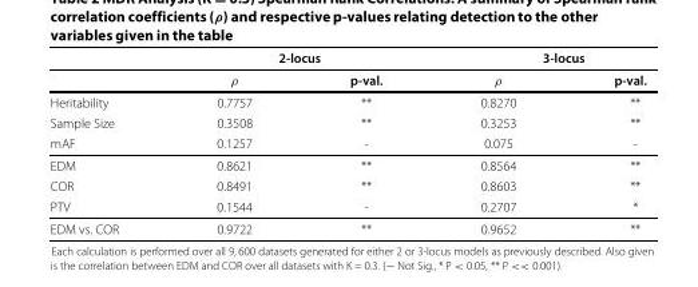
<table><thead><tr><td rowspan="2"></td><td colspan="2">2-locus</td><td colspan="2">3-locus</td></tr><tr><td>ρ</td><td>p-val.</td><td>ρ</td><td>p-val.</td></tr></thead><tbody><tr><td>Heritability</td><td>0.7757</td><td>**</td><td>0.8270</td><td>**</td></tr><tr><td>Sample Size</td><td>0.3508</td><td>**</td><td>0.3253</td><td>**</td></tr><tr><td>mAF</td><td>0.1257</td><td>-</td><td>0.075</td><td>-</td></tr><tr><td>EDM</td><td>0.8621</td><td>**</td><td>0.8564</td><td>**</td></tr><tr><td>COR</td><td>0.8491</td><td>**</td><td>0.8603</td><td>**</td></tr><tr><td>PTV</td><td>0.1544</td><td>-</td><td>0.2707</td><td>*</td></tr><tr><td>EDM vs. COR</td><td>0.9722</td><td>**</td><td>0.9652</td><td>**</td></tr></tbody></table>